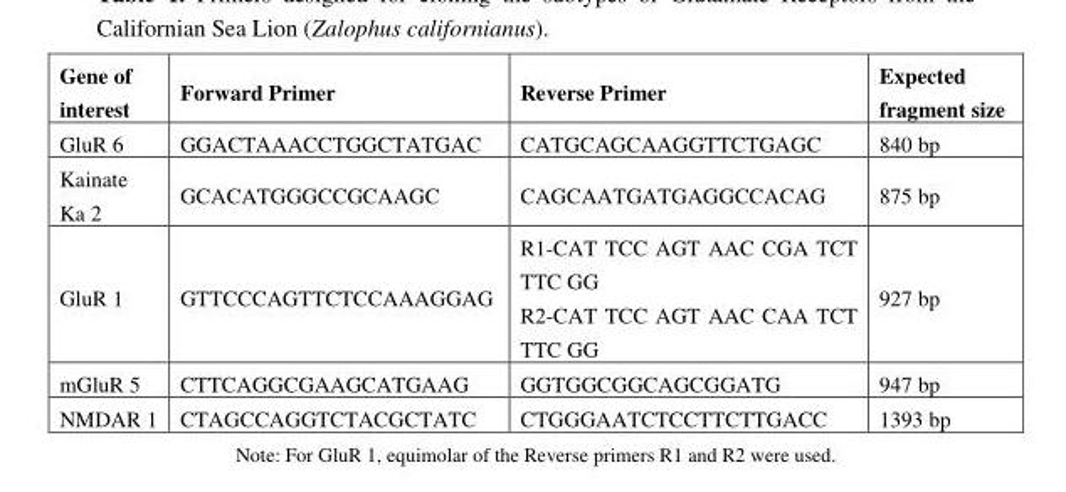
<table><thead><tr><td>Gene of interest</td><td>Forward Primer</td><td>Reverse Primer</td><td>Expected fragment size</td></tr></thead><tbody><tr><td>GluR 6</td><td>GGACTAAACCTGGCTATGAC</td><td>CATGCAGCAAGGTTCTGAGC</td><td>840 bp</td></tr><tr><td>Kainate Ka 2</td><td>GCACATGGGCCGCAAGC</td><td>CAGCAATGATGAGGCCACAG</td><td>875 bp</td></tr><tr><td>GluR 1</td><td>GTTCCCAGTTCTCCAAAGGAG</td><td>R1-CAT TCC AGT AAC CGA TCT TTC GG R2-CAT TCC AGT AAC CAA TCT TTC GG</td><td>927 bp</td></tr><tr><td>mGluR 5</td><td>CTTCAGGCGAAGCATGAAG</td><td>GGTGGCGGCAGCGGATG</td><td>947 bp</td></tr><tr><td>NMDAR 1</td><td>CTAGCCAGGTCTACGCTATC</td><td>CTGGGAATCTCCTTCTTGACC</td><td>1393 bp</td></tr></tbody></table>